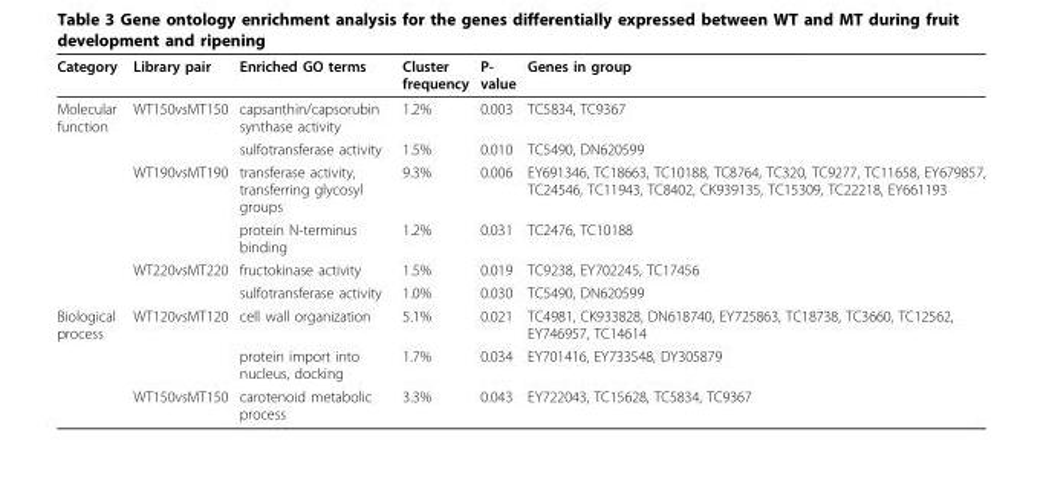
<table><thead><tr><td>Category</td><td>Library pair</td><td>Enriched GO terms</td><td>Cluster frequency</td><td>P- value</td><td>Genes in group</td></tr></thead><tbody><tr><td rowspan="6">Molecular function</td><td>WT150vsMT150</td><td>capsanthin/capsorubin synthase activity</td><td>1.2%</td><td>0.003</td><td>TC5834, TC9367</td></tr><tr><td></td><td>sulfotransferase activity</td><td>1.5%</td><td>0.010</td><td>TC5490, DN620599</td></tr><tr><td>WT190vsMT190</td><td>transferase activity, transferring glycosyl groups</td><td>9.3%</td><td>0.006</td><td>EY691346, TC18663, TC10188, TC8764, TC320, TC9277, TC11658, EY679857, TC24546, TC11943, TC8402, CK939135, TC15309, TC22218, EY661193</td></tr><tr><td></td><td>protein N-terminus binding</td><td>1.2%</td><td>0.031</td><td>TC2476, TC10188</td></tr><tr><td>WT220vsMT220</td><td>fructokinase activity</td><td>1.5%</td><td>0.019</td><td>TC9238, EY702245, TC17456</td></tr><tr><td></td><td>sulfotransferase activity</td><td>1.0%</td><td>0.030</td><td>TC5490, DN620599</td></tr><tr><td rowspan="3">Biological process</td><td>WT120vsMT120</td><td>cell wall organization</td><td>5.1%</td><td>0.021</td><td>TC4981, CK933828, DN618740, EY725863, TC18738, TC3660, TC12562, EY746957, TC14614</td></tr><tr><td></td><td>protein import into nucleus, docking</td><td>1.7%</td><td>0.034</td><td>EY701416, EY733548, DY305879</td></tr><tr><td>WT150vsMT150</td><td>carotenoid metabolic process</td><td>3.3%</td><td>0.043</td><td>EY722043, TC15628, TC5834, TC9367</td></tr></tbody></table>